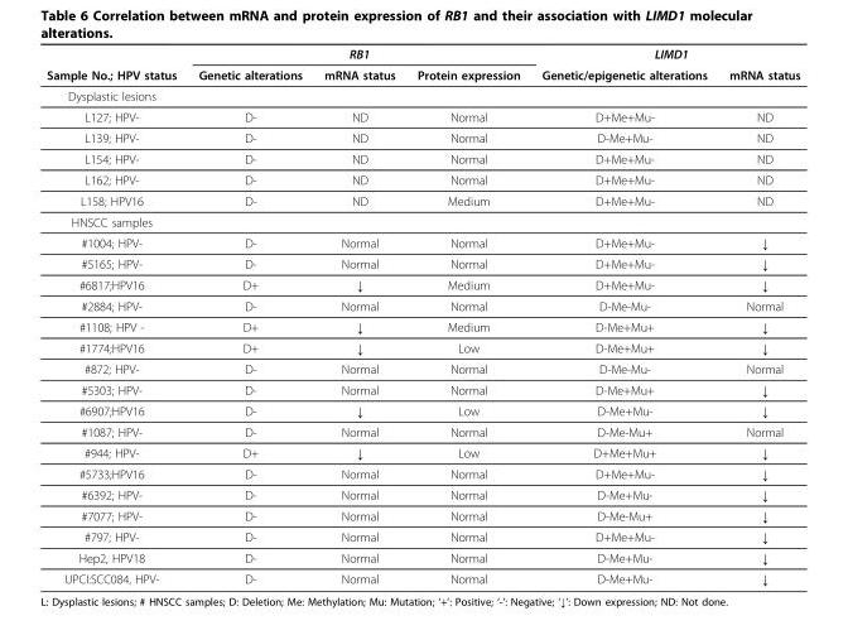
<table><thead><tr><td rowspan="2">Sample No.; HPV status</td><td colspan="3">RB1</td><td colspan="2">LIMD1</td></tr><tr><td>Genetic alterations</td><td>mRNA status</td><td>Protein expression</td><td>Genetic/epigenetic alterations</td><td>mRNA status</td></tr></thead><tbody><tr><td colspan="6">Dysplastic lesions</td></tr><tr><td>L127; HPV-</td><td>D-</td><td>ND</td><td>Normal</td><td>D+Me+Mu-</td><td>ND</td></tr><tr><td>L139; HPV-</td><td>D-</td><td>ND</td><td>Normal</td><td>D-Me+Mu-</td><td>ND</td></tr><tr><td>L154; HPV-</td><td>D-</td><td>ND</td><td>Normal</td><td>D+Me+Mu-</td><td>ND</td></tr><tr><td>L162; HPV-</td><td>D-</td><td>ND</td><td>Normal</td><td>D+Me+Mu-</td><td>ND</td></tr><tr><td>L158; HPV16</td><td>D-</td><td>ND</td><td>Medium</td><td>D+Me+Mu-</td><td>ND</td></tr><tr><td colspan="6">HNSCC samples</td></tr><tr><td>#1004; HPV-</td><td>D-</td><td>Normal</td><td>Normal</td><td>D+Me+Mu-</td><td>↓</td></tr><tr><td>#5165; HPV-</td><td>D-</td><td>Normal</td><td>Normal</td><td>D+Me+Mu-</td><td>↓</td></tr><tr><td>#6817;HPV16</td><td>D+</td><td>↓</td><td>Medium</td><td>D+Me+Mu-</td><td>↓</td></tr><tr><td>#2884; HPV-</td><td>D-</td><td>Normal</td><td>Normal</td><td>D-Me-Mu-</td><td>Normal</td></tr><tr><td>#1108; HPV -</td><td>D+</td><td>↓</td><td>Medium</td><td>D-Me+Mu+</td><td>↓</td></tr><tr><td>#1774;HPV16</td><td>D+</td><td>↓</td><td>Low</td><td>D-Me+Mu+</td><td>↓</td></tr><tr><td>#872; HPV-</td><td>D-</td><td>Normal</td><td>Normal</td><td>D-Me-Mu-</td><td>Normal</td></tr><tr><td>#5303; HPV-</td><td>D-</td><td>Normal</td><td>Normal</td><td>D-Me+Mu+</td><td>↓</td></tr><tr><td>#6907;HPV16</td><td>D-</td><td>↓</td><td>Low</td><td>D-Me+Mu-</td><td>↓</td></tr><tr><td>#1087; HPV-</td><td>D-</td><td>Normal</td><td>Normal</td><td>D-Me-Mu+</td><td>Normal</td></tr><tr><td>#944; HPV-</td><td>D+</td><td>↓</td><td>Low</td><td>D+Me+Mu+</td><td>↓</td></tr><tr><td>#5733;HPV16</td><td>D-</td><td>Normal</td><td>Normal</td><td>D+Me+Mu-</td><td>↓</td></tr><tr><td>#6392; HPV-</td><td>D-</td><td>Normal</td><td>Normal</td><td>D-Me+Mu-</td><td>↓</td></tr><tr><td>#7077; HPV-</td><td>D-</td><td>Normal</td><td>Normal</td><td>D-Me-Mu+</td><td>↓</td></tr><tr><td>#797; HPV-</td><td>D-</td><td>Normal</td><td>Normal</td><td>D+Me+Mu-</td><td>↓</td></tr><tr><td>Hep2, HPV18</td><td>D-</td><td>Normal</td><td>Normal</td><td>D-Me+Mu-</td><td>↓</td></tr><tr><td>UPCI:SCC084, HPV-</td><td>D-</td><td>Normal</td><td>Normal</td><td>D-Me+Mu-</td><td>↓</td></tr></tbody></table>